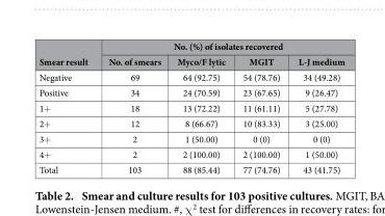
<table><thead><tr><td rowspan="2">Smear result</td><td colspan="4">No. (%) of isolates recovered</td></tr><tr><td>No. of smears</td><td>Myco/F lytic</td><td>MGIT</td><td>L-J medium</td></tr></thead><tbody><tr><td>Negative</td><td>69</td><td>64 (92.75)</td><td>54 (78.76)</td><td>34 (49.28)</td></tr><tr><td>Positive</td><td>34</td><td>24 (70.59)</td><td>23 (67.65)</td><td>9 (26.47)</td></tr><tr><td>1+</td><td>18</td><td>13 (72.22)</td><td>11 (61.11)</td><td>5 (27.78)</td></tr><tr><td>2+</td><td>12</td><td>8 (66.67)</td><td>10 (83.33)</td><td>3 (25.00)</td></tr><tr><td>3+</td><td>2</td><td>1 (50.00)</td><td>0 (0)</td><td>0 (0)</td></tr><tr><td>4+</td><td>2</td><td>2 (100.00)</td><td>2 (100.00)</td><td>1 (50.00)</td></tr><tr><td>Total</td><td>103</td><td>88 (85.44)</td><td>77 (74.76)</td><td>43 (41.75)</td></tr></tbody></table>